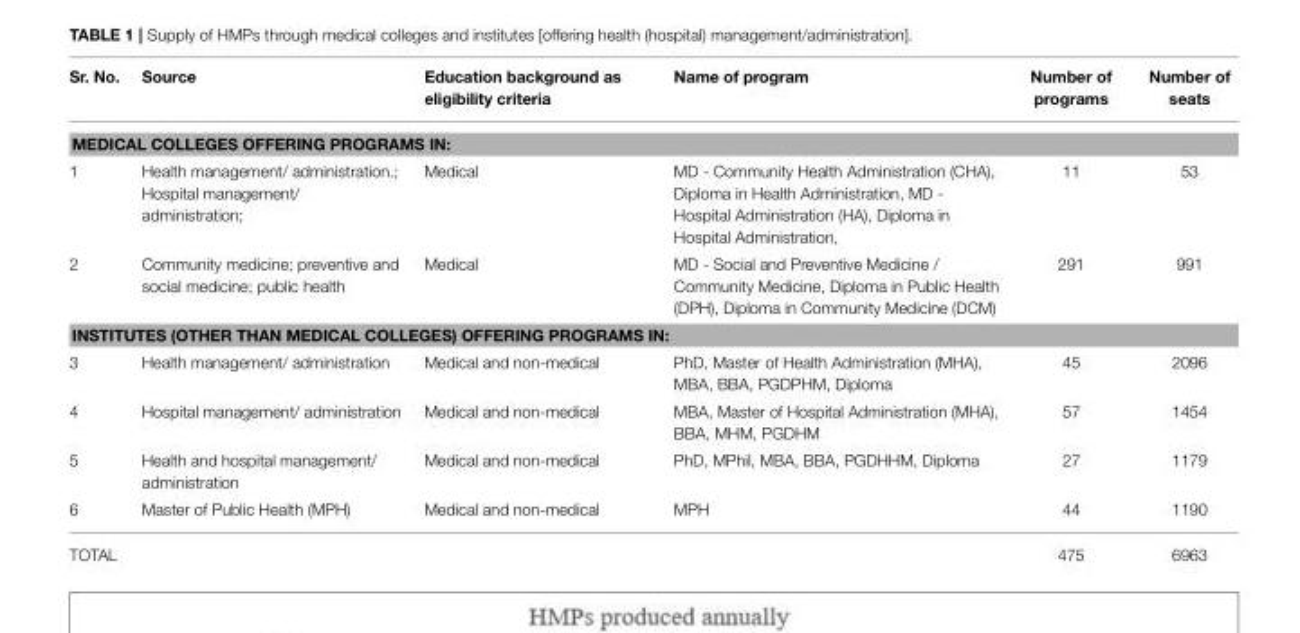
<table><thead><tr><td>Sr. No.</td><td>Source</td><td>Education background as eligibility criteria</td><td>Name of program</td><td>Number of programs</td><td>Number of seats</td></tr></thead><tbody><tr><td colspan="6">MEDICAL COLLEGES OFFERING PROGRAMS IN:</td></tr><tr><td>1</td><td>Health management/ administration.; Hospital management/ administration;</td><td>Medical</td><td>MD - Community Health Administration (CHA), Diploma in Health Administration, MD - Hospital Administration (HA), Diploma in Hospital Administration,</td><td>11</td><td>53</td></tr><tr><td>2</td><td>Community medicine; preventive and social medicine; public health</td><td>Medical</td><td>MD - Social and Preventive Medicine / Community Medicine, Diploma in Public Health (DPH), Diploma in Community Medicine (DCM)</td><td>291</td><td>991</td></tr><tr><td colspan="6">INSTITUTES (OTHER THAN MEDICAL COLLEGES) OFFERING PROGRAMS IN:</td></tr><tr><td>3</td><td>Health management/ administration</td><td>Medical and non-medical</td><td>PhD, Master of Health Administration (MHA), MBA, BBA, PGDPHM, Diploma</td><td>45</td><td>2096</td></tr><tr><td>4</td><td>Hospital management/ administration</td><td>Medical and non-medical</td><td>MBA, Master of Hospital Administration (MHA), BBA, MHM, PGDHM</td><td>57</td><td>1454</td></tr><tr><td>5</td><td>Health and hospital management/ administration</td><td>Medical and non-medical</td><td>PhD, MPhil, MBA, BBA, PGDHHM, Diploma</td><td>27</td><td>1179</td></tr><tr><td>6</td><td>Master of Public Health (MPH)</td><td>Medical and non-medical</td><td>MPH</td><td>44</td><td>1190</td></tr><tr><td colspan="4">TOTAL</td><td>475</td><td>6963</td></tr></tbody></table>